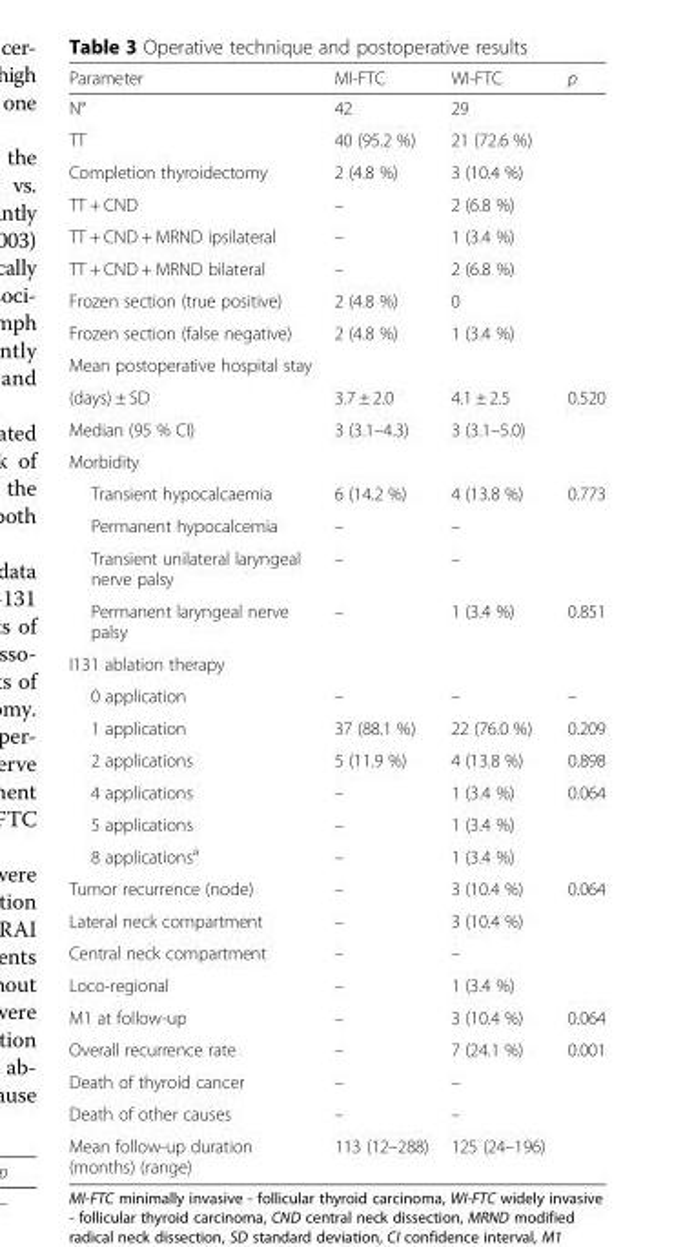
<table><thead><tr><td>Parameter</td><td>MI-FTC</td><td>WI-FTC</td><td>p</td></tr></thead><tbody><tr><td>N°</td><td>42</td><td>29</td><td></td></tr><tr><td>TT</td><td>40 (95.2 %)</td><td>21 (72.6 %)</td><td></td></tr><tr><td>Completion thyroidectomy</td><td>2 (4.8 %)</td><td>3 (10.4 %)</td><td></td></tr><tr><td>TT + CND</td><td>–</td><td>2 (6.8 %)</td><td></td></tr><tr><td>TT + CND + MRND ipsilateral</td><td>–</td><td>1 (3.4 %)</td><td></td></tr><tr><td>TT + CND + MRND bilateral</td><td>–</td><td>2 (6.8 %)</td><td></td></tr><tr><td>Frozen section (true positive)</td><td>2 (4.8 %)</td><td>0</td><td></td></tr><tr><td>Frozen section (false negative)</td><td>2 (4.8 %)</td><td>1 (3.4 %)</td><td></td></tr><tr><td colspan="4">Mean postoperative hospital stay</td></tr><tr><td>(days) ± SD</td><td>3.7 ± 2.0</td><td>4.1 ± 2.5</td><td>0.520</td></tr><tr><td>Median (95 % CI)</td><td>3 (3.1–4.3)</td><td>3 (3.1–5.0)</td><td></td></tr><tr><td colspan="4">Morbidity</td></tr><tr><td>Transient hypocalcaemia</td><td>6 (14.2 %)</td><td>4 (13.8 %)</td><td>0.773</td></tr><tr><td>Permanent hypocalcemia</td><td>–</td><td>–</td><td></td></tr><tr><td>Transient unilateral laryngeal nerve palsy</td><td>–</td><td>–</td><td></td></tr><tr><td>Permanent laryngeal nerve palsy</td><td>–</td><td>1 (3.4 %)</td><td>0.851</td></tr><tr><td colspan="4">I131 ablation therapy</td></tr><tr><td>0 application</td><td>–</td><td>–</td><td>–</td></tr><tr><td>1 application</td><td>37 (88.1 %)</td><td>22 (76.0 %)</td><td>0.209</td></tr><tr><td>2 applications</td><td>5 (11.9 %)</td><td>4 (13.8 %)</td><td>0.898</td></tr><tr><td>4 applications</td><td>–</td><td>1 (3.4 %)</td><td>0.064</td></tr><tr><td>5 applications</td><td>–</td><td>1 (3.4 %)</td><td></td></tr><tr><td>8 applications<sup>a</sup></td><td>–</td><td>1 (3.4 %)</td><td></td></tr><tr><td>Tumor recurrence (node)</td><td>–</td><td>3 (10.4 %)</td><td>0.064</td></tr><tr><td>Lateral neck compartment</td><td>–</td><td>3 (10.4 %)</td><td></td></tr><tr><td>Central neck compartment</td><td>–</td><td>–</td><td></td></tr><tr><td>Loco-regional</td><td>–</td><td>1 (3.4 %)</td><td></td></tr><tr><td>M1 at follow-up</td><td>–</td><td>3 (10.4 %)</td><td>0.064</td></tr><tr><td>Overall recurrence rate</td><td>–</td><td>7 (24.1 %)</td><td>0.001</td></tr><tr><td>Death of thyroid cancer</td><td>–</td><td>–</td><td></td></tr><tr><td>Death of other causes</td><td>–</td><td>–</td><td></td></tr><tr><td>Mean follow-up duration (months) (range)</td><td>113 (12–288)</td><td>125 (24–196)</td><td></td></tr></tbody></table>